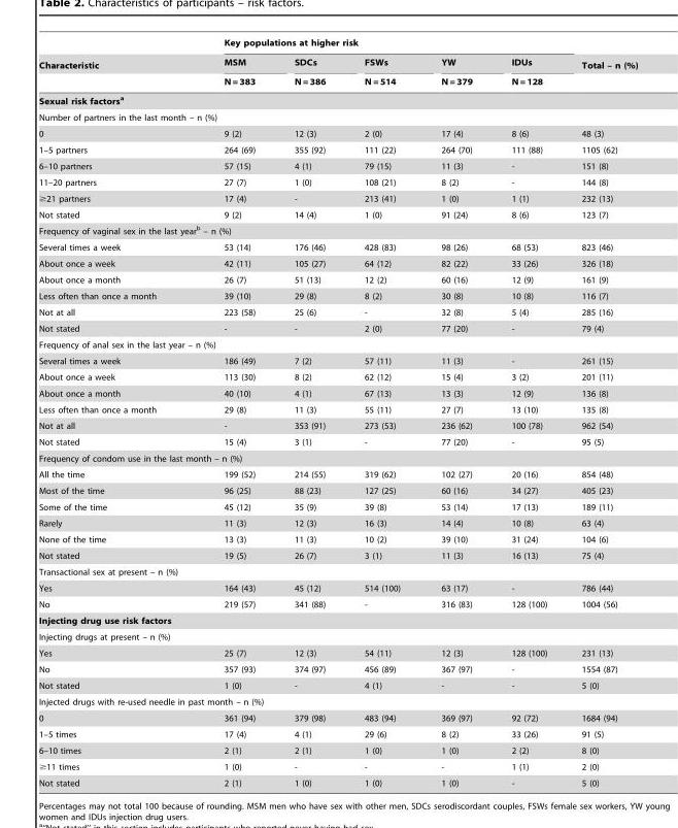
<table><thead><tr><td rowspan="3">Characteristic</td><td colspan="5">Key populations at higher risk</td><td rowspan="3">Total – n (%)</td></tr><tr><td rowspan="2">MSM N = 383</td><td rowspan="2">SDCs N = 386</td><td rowspan="2">FSWs N = 514</td><td rowspan="2">YW N = 379</td><td rowspan="2">IDUs N = 128</td></tr><tr></tr></thead><tbody><tr><td colspan="7">Sexual risk factorsa</td></tr><tr><td colspan="7">Number of partners in the last month – n (%)</td></tr><tr><td>0</td><td>9 (2)</td><td>12 (3)</td><td>2 (0)</td><td>17 (4)</td><td>8 (6)</td><td>48 (3)</td></tr><tr><td>1–5 partners</td><td>264 (69)</td><td>355 (92)</td><td>111 (22)</td><td>264 (70)</td><td>111 (88)</td><td>1105 (62)</td></tr><tr><td>6–10 partners</td><td>57 (15)</td><td>4 (1)</td><td>79 (15)</td><td>11 (3)</td><td>-</td><td>151 (8)</td></tr><tr><td>11–20 partners</td><td>27 (7)</td><td>1 (0)</td><td>108 (21)</td><td>8 (2)</td><td>-</td><td>144 (8)</td></tr><tr><td>≥21 partners</td><td>17 (4)</td><td>-</td><td>213 (41)</td><td>1 (0)</td><td>1 (1)</td><td>232 (13)</td></tr><tr><td>Not stated</td><td>9 (2)</td><td>14 (4)</td><td>1 (0)</td><td>91 (24)</td><td>8 (6)</td><td>123 (7)</td></tr><tr><td colspan="7">Frequency of vaginal sex in the last year<sup>b</sup> – n (%)</td></tr><tr><td>Several times a week</td><td>53 (14)</td><td>176 (46)</td><td>428 (83)</td><td>98 (26)</td><td>68 (53)</td><td>823 (46)</td></tr><tr><td>About once a week</td><td>42 (11)</td><td>105 (27)</td><td>64 (12)</td><td>82 (22)</td><td>33 (26)</td><td>326 (18)</td></tr><tr><td>About once a month</td><td>26 (7)</td><td>51 (13)</td><td>12 (2)</td><td>60 (16)</td><td>12 (9)</td><td>161 (9)</td></tr><tr><td>Less often than once a month</td><td>39 (10)</td><td>29 (8)</td><td>8 (2)</td><td>30 (8)</td><td>10 (8)</td><td>116 (7)</td></tr><tr><td>Not at all</td><td>223 (58)</td><td>25 (6)</td><td>-</td><td>32 (8)</td><td>5 (4)</td><td>285 (16)</td></tr><tr><td>Not stated</td><td>-</td><td>-</td><td>2 (0)</td><td>77 (20)</td><td>-</td><td>79 (4)</td></tr><tr><td colspan="7">Frequency of anal sex in the last year – n (%)</td></tr><tr><td>Several times a week</td><td>186 (49)</td><td>7 (2)</td><td>57 (11)</td><td>11 (3)</td><td>-</td><td>261 (15)</td></tr><tr><td>About once a week</td><td>113 (30)</td><td>8 (2)</td><td>62 (12)</td><td>15 (4)</td><td>3 (2)</td><td>201 (11)</td></tr><tr><td>About once a month</td><td>40 (10)</td><td>4 (1)</td><td>67 (13)</td><td>13 (3)</td><td>12 (9)</td><td>136 (8)</td></tr><tr><td>Less often than once a month</td><td>29 (8)</td><td>11 (3)</td><td>55 (11)</td><td>27 (7)</td><td>13 (10)</td><td>135 (8)</td></tr><tr><td>Not at all</td><td>-</td><td>353 (91)</td><td>273 (53)</td><td>236 (62)</td><td>100 (78)</td><td>962 (54)</td></tr><tr><td>Not stated</td><td>15 (4)</td><td>3 (1)</td><td>-</td><td>77 (20)</td><td>-</td><td>95 (5)</td></tr><tr><td colspan="7">Frequency of condom use in the last month – n (%)</td></tr><tr><td>All the time</td><td>199 (52)</td><td>214 (55)</td><td>319 (62)</td><td>102 (27)</td><td>20 (16)</td><td>854 (48)</td></tr><tr><td>Most of the time</td><td>96 (25)</td><td>88 (23)</td><td>127 (25)</td><td>60 (16)</td><td>34 (27)</td><td>405 (23)</td></tr><tr><td>Some of the time</td><td>45 (12)</td><td>35 (9)</td><td>39 (8)</td><td>53 (14)</td><td>17 (13)</td><td>189 (11)</td></tr><tr><td>Rarely</td><td>11 (3)</td><td>12 (3)</td><td>16 (3)</td><td>14 (4)</td><td>10 (8)</td><td>63 (4)</td></tr><tr><td>None of the time</td><td>13 (3)</td><td>11 (3)</td><td>10 (2)</td><td>39 (10)</td><td>31 (24)</td><td>104 (6)</td></tr><tr><td>Not stated</td><td>19 (5)</td><td>26 (7)</td><td>3 (1)</td><td>11 (3)</td><td>16 (13)</td><td>75 (4)</td></tr><tr><td colspan="7">Transactional sex at present – n (%)</td></tr><tr><td>Yes</td><td>164 (43)</td><td>45 (12)</td><td>514 (100)</td><td>63 (17)</td><td>-</td><td>786 (44)</td></tr><tr><td>No</td><td>219 (57)</td><td>341 (88)</td><td>-</td><td>316 (83)</td><td>128 (100)</td><td>1004 (56)</td></tr><tr><td colspan="7">Injecting drug use risk factors</td></tr><tr><td colspan="7">Injecting drugs at present – n (%)</td></tr><tr><td>Yes</td><td>25 (7)</td><td>12 (3)</td><td>54 (11)</td><td>12 (3)</td><td>128 (100)</td><td>231 (13)</td></tr><tr><td>No</td><td>357 (93)</td><td>374 (97)</td><td>456 (89)</td><td>367 (97)</td><td>-</td><td>1554 (87)</td></tr><tr><td>Not stated</td><td>1 (0)</td><td>-</td><td>4 (1)</td><td>-</td><td>-</td><td>5 (0)</td></tr><tr><td colspan="7">Injected drugs with re-used needle in past month – n (%)</td></tr><tr><td>0</td><td>361 (94)</td><td>379 (98)</td><td>483 (94)</td><td>369 (97)</td><td>92 (72)</td><td>1684 (94)</td></tr><tr><td>1–5 times</td><td>17 (4)</td><td>4 (1)</td><td>29 (6)</td><td>8 (2)</td><td>33 (26)</td><td>91 (5)</td></tr><tr><td>6–10 times</td><td>2 (1)</td><td>2 (1)</td><td>1 (0)</td><td>1 (0)</td><td>2 (2)</td><td>8 (0)</td></tr><tr><td>≥11 times</td><td>1 (0)</td><td>-</td><td>-</td><td>-</td><td>1 (1)</td><td>2 (0)</td></tr><tr><td>Not stated</td><td>2 (1)</td><td>1 (0)</td><td>1 (0)</td><td>1 (0)</td><td>-</td><td>5 (0)</td></tr></tbody></table>